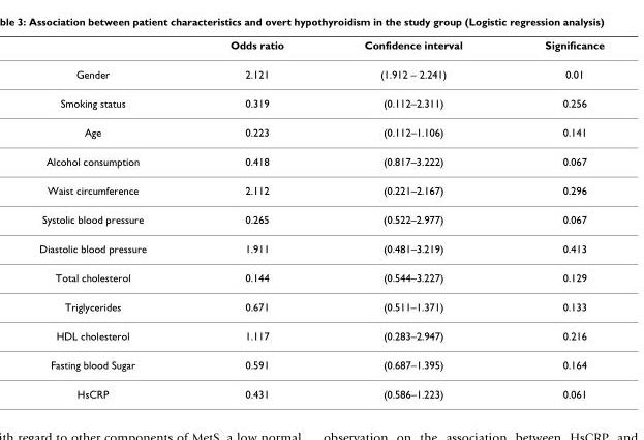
<table><thead><tr><td></td><td>Odds ratio</td><td>Confidence interval</td><td>Significance</td></tr></thead><tbody><tr><td>Gender</td><td>2.121</td><td>(1.912 – 2.241)</td><td>0.01</td></tr><tr><td>Smoking status</td><td>0.319</td><td>(0.112–2.311)</td><td>0.256</td></tr><tr><td>Age</td><td>0.223</td><td>(0.112–1.106)</td><td>0.141</td></tr><tr><td>Alcohol consumption</td><td>0.418</td><td>(0.817–3.222)</td><td>0.067</td></tr><tr><td>Waist circumference</td><td>2.112</td><td>(0.221–2.167)</td><td>0.296</td></tr><tr><td>Systolic blood pressure</td><td>0.265</td><td>(0.522–2.977)</td><td>0.067</td></tr><tr><td>Diastolic blood pressure</td><td>1.911</td><td>(0.481–3.219)</td><td>0.413</td></tr><tr><td>Total cholesterol</td><td>0.144</td><td>(0.544–3.227)</td><td>0.129</td></tr><tr><td>Triglycerides</td><td>0.671</td><td>(0.511–1.371)</td><td>0.133</td></tr><tr><td>HDL cholesterol</td><td>1.117</td><td>(0.283–2.947)</td><td>0.216</td></tr><tr><td>Fasting blood Sugar</td><td>0.591</td><td>(0.687–1.395)</td><td>0.164</td></tr><tr><td>HsCRP</td><td>0.431</td><td>(0.586–1.223)</td><td>0.061</td></tr></tbody></table>